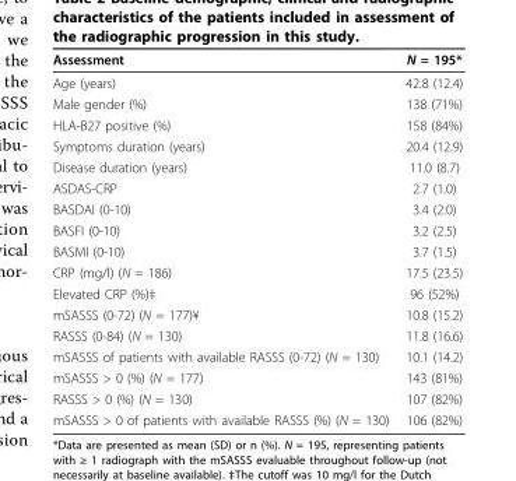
<table><thead><tr><td>Assessment</td><td>N = 195*</td></tr></thead><tbody><tr><td>Age (years)</td><td>42.8 (12.4)</td></tr><tr><td>Male gender (%)</td><td>138 (71%)</td></tr><tr><td>HLA-B27 positive (%)</td><td>158 (84%)</td></tr><tr><td>Symptoms duration (years)</td><td>20.4 (12.9)</td></tr><tr><td>Disease duration (years)</td><td>11.0 (8.7)</td></tr><tr><td>ASDAS-CRP</td><td>2.7 (1.0)</td></tr><tr><td>BASDAI (0-10)</td><td>3.4 (2.0)</td></tr><tr><td>BASFI (0-10)</td><td>3.2 (2.5)</td></tr><tr><td>BASMI (0-10)</td><td>3.7 (1.5)</td></tr><tr><td>CRP (mg/l) (N = 186)</td><td>17.5 (23.5)</td></tr><tr><td>Elevated CRP (%)‡</td><td>96 (52%)</td></tr><tr><td>mSASSS (0-72) (N = 177)¥</td><td>10.8 (15.2)</td></tr><tr><td>RASSS (0-84) (N = 130)</td><td>11.8 (16.6)</td></tr><tr><td>mSASSS of patients with available RASSS (0-72) (N = 130)</td><td>10.1 (14.2)</td></tr><tr><td>mSASSS &gt; 0 (%) (N = 177)</td><td>143 (81%)</td></tr><tr><td>RASSS &gt; 0 (%) (N = 130)</td><td>107 (82%)</td></tr><tr><td>mSASSS &gt; 0 of patients with available RASSS (%) (N = 130)</td><td>106 (82%)</td></tr></tbody></table>